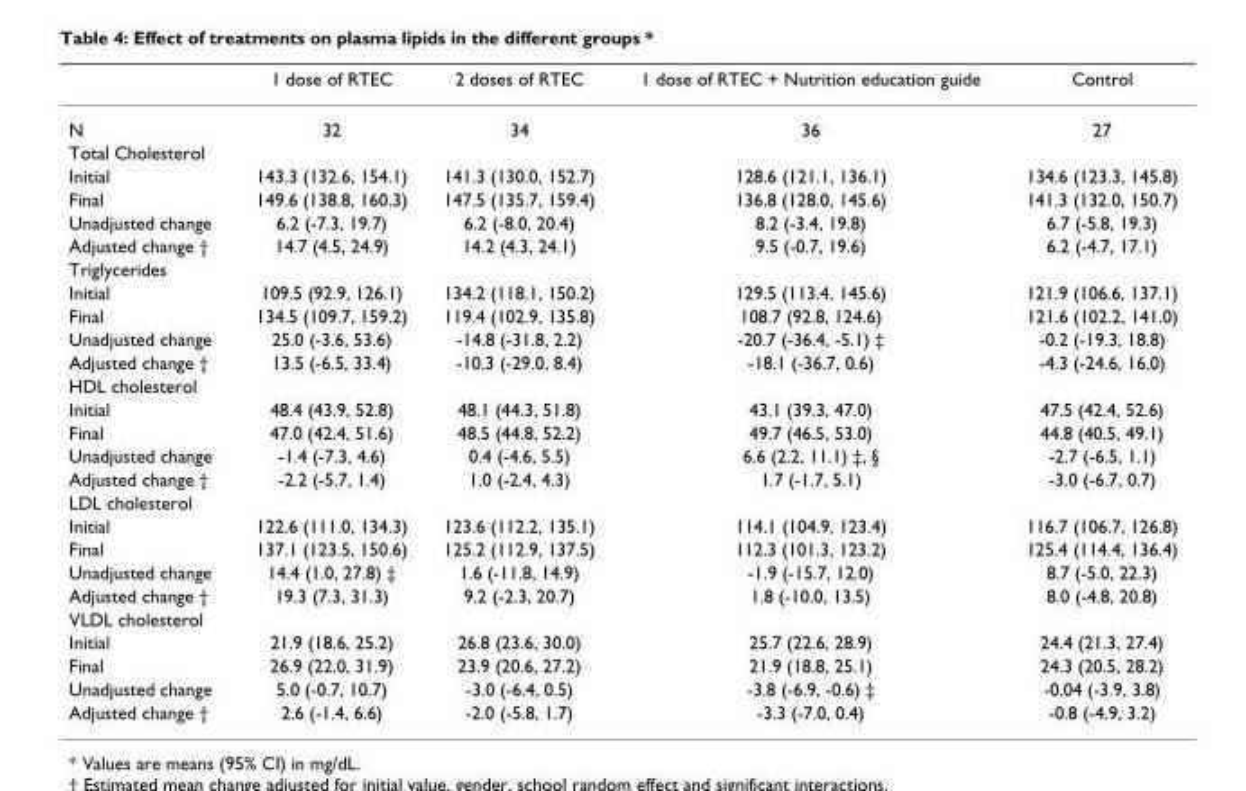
<table><thead><tr><td></td><td>1 dose of RTEC</td><td>2 doses of RTEC</td><td>1 dose of RTEC + Nutrition education guide</td><td>Control</td></tr></thead><tbody><tr><td>N</td><td>32</td><td>34</td><td>36</td><td>27</td></tr><tr><td colspan="5">Total Cholesterol</td></tr><tr><td>Initial</td><td>143.3 (132.6, 154.1)</td><td>141.3 (130.0, 152.7)</td><td>128.6 (121.1, 136.1)</td><td>134.6 (123.3, 145.8)</td></tr><tr><td>Final</td><td>149.6 (138.8, 160.3)</td><td>147.5 (135.7, 159.4)</td><td>136.8 (128.0, 145.6)</td><td>141.3 (132.0, 150.7)</td></tr><tr><td>Unadjusted change</td><td>6.2 (-7.3, 19.7)</td><td>6.2 (-8.0, 20.4)</td><td>8.2 (-3.4, 19.8)</td><td>6.7 (-5.8, 19.3)</td></tr><tr><td>Adjusted change †</td><td>14.7 (4.5, 24.9)</td><td>14.2 (4.3, 24.1)</td><td>9.5 (-0.7, 19.6)</td><td>6.2 (-4.7, 17.1)</td></tr><tr><td colspan="5">Triglycerides</td></tr><tr><td>Initial</td><td>109.5 (92.9, 126.1)</td><td>134.2 (118.1, 150.2)</td><td>129.5 (113.4, 145.6)</td><td>121.9 (106.6, 137.1)</td></tr><tr><td>Final</td><td>134.5 (109.7, 159.2)</td><td>119.4 (102.9, 135.8)</td><td>108.7 (92.8, 124.6)</td><td>121.6 (102.2, 141.0)</td></tr><tr><td>Unadjusted change</td><td>25.0 (-3.6, 53.6)</td><td>-14.8 (-31.8, 2.2)</td><td>-20.7 (-36.4, -5.1) ‡</td><td>-0.2 (-19.3, 18.8)</td></tr><tr><td>Adjusted change †</td><td>13.5 (-6.5, 33.4)</td><td>-10.3 (-29.0, 8.4)</td><td>-18.1 (-36.7, 0.6)</td><td>-4.3 (-24.6, 16.0)</td></tr><tr><td colspan="5">HDL cholesterol</td></tr><tr><td>Initial</td><td>48.4 (43.9, 52.8)</td><td>48.1 (44.3, 51.8)</td><td>43.1 (39.3, 47.0)</td><td>47.5 (42.4, 52.6)</td></tr><tr><td>Final</td><td>47.0 (42.4, 51.6)</td><td>48.5 (44.8, 52.2)</td><td>49.7 (46.5, 53.0)</td><td>44.8 (40.5, 49.1)</td></tr><tr><td>Unadjusted change</td><td>-1.4 (-7.3, 4.6)</td><td>0.4 (-4.6, 5.5)</td><td>6.6 (2.2, 11.1) ‡, §</td><td>-2.7 (-6.5, 1.1)</td></tr><tr><td>Adjusted change †</td><td>-2.2 (-5.7, 1.4)</td><td>1.0 (-2.4, 4.3)</td><td>1.7 (-1.7, 5.1)</td><td>-3.0 (-6.7, 0.7)</td></tr><tr><td colspan="5">LDL cholesterol</td></tr><tr><td>Initial</td><td>122.6 (111.0, 134.3)</td><td>123.6 (112.2, 135.1)</td><td>114.1 (104.9, 123.4)</td><td>116.7 (106.7, 126.8)</td></tr><tr><td>Final</td><td>137.1 (123.5, 150.6)</td><td>125.2 (112.9, 137.5)</td><td>112.3 (101.3, 123.2)</td><td>125.4 (114.4, 136.4)</td></tr><tr><td>Unadjusted change</td><td>14.4 (1.0, 27.8) ‡</td><td>1.6 (-11.8, 14.9)</td><td>-1.9 (-15.7, 12.0)</td><td>8.7 (-5.0, 22.3)</td></tr><tr><td>Adjusted change †</td><td>19.3 (7.3, 31.3)</td><td>9.2 (-2.3, 20.7)</td><td>1.8 (-10.0, 13.5)</td><td>8.0 (-4.8, 20.8)</td></tr><tr><td colspan="5">VLDL cholesterol</td></tr><tr><td>Initial</td><td>21.9 (18.6, 25.2)</td><td>26.8 (23.6, 30.0)</td><td>25.7 (22.6, 28.9)</td><td>24.4 (21.3, 27.4)</td></tr><tr><td>Final</td><td>26.9 (22.0, 31.9)</td><td>23.9 (20.6, 27.2)</td><td>21.9 (18.8, 25.1)</td><td>24.3 (20.5, 28.2)</td></tr><tr><td>Unadjusted change</td><td>5.0 (-0.7, 10.7)</td><td>-3.0 (-6.4, 0.5)</td><td>-3.8 (-6.9, -0.6) ‡</td><td>-0.04 (-3.9, 3.8)</td></tr><tr><td>Adjusted change †</td><td>2.6 (-1.4, 6.6)</td><td>-2.0 (-5.8, 1.7)</td><td>-3.3 (-7.0, 0.4)</td><td>-0.8 (-4.9, 3.2)</td></tr></tbody></table>